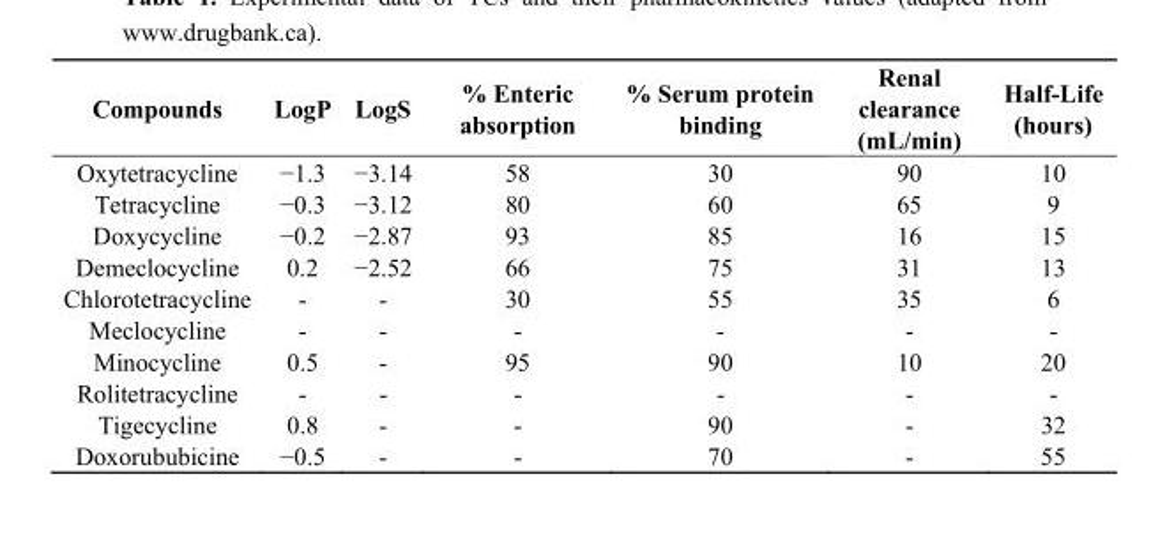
<table><thead><tr><td>Compounds</td><td>LogP</td><td>LogS</td><td>% Enteric absorption</td><td>% Serum protein binding</td><td>Renal clearance (mL/min)</td><td>Half-Life (hours)</td></tr></thead><tbody><tr><td>Oxytetracycline</td><td>−1.3</td><td>−3.14</td><td>58</td><td>30</td><td>90</td><td>10</td></tr><tr><td>Tetracycline</td><td>−0.3</td><td>−3.12</td><td>80</td><td>60</td><td>65</td><td>9</td></tr><tr><td>Doxycycline</td><td>−0.2</td><td>−2.87</td><td>93</td><td>85</td><td>16</td><td>15</td></tr><tr><td>Demeclocycline</td><td>0.2</td><td>−2.52</td><td>66</td><td>75</td><td>31</td><td>13</td></tr><tr><td>Chlorotetracycline</td><td>-</td><td>-</td><td>30</td><td>55</td><td>35</td><td>6</td></tr><tr><td>Meclocycline</td><td>-</td><td>-</td><td>-</td><td>-</td><td>-</td><td>-</td></tr><tr><td>Minocycline</td><td>0.5</td><td>-</td><td>95</td><td>90</td><td>10</td><td>20</td></tr><tr><td>Rolitetracycline</td><td>-</td><td>-</td><td>-</td><td>-</td><td>-</td><td>-</td></tr><tr><td>Tigecycline</td><td>0.8</td><td>-</td><td>-</td><td>90</td><td>-</td><td>32</td></tr><tr><td>Doxorububicine</td><td>−0.5</td><td>-</td><td>-</td><td>70</td><td>-</td><td>55</td></tr></tbody></table>